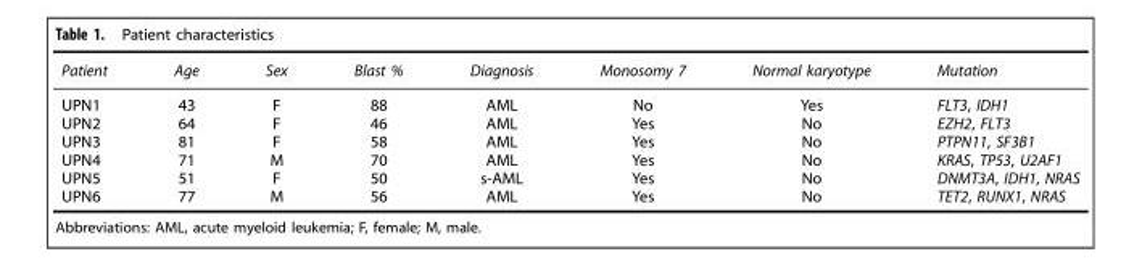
<table><thead><tr><td>Patient</td><td>Age</td><td>Sex</td><td>Blast %</td><td>Diagnosis</td><td>Monosomy 7</td><td>Normal karyotype</td><td>Mutation</td></tr></thead><tbody><tr><td>UPN1</td><td>43</td><td>F</td><td>88</td><td>AML</td><td>No</td><td>Yes</td><td>FLT3, IDH1</td></tr><tr><td>UPN2</td><td>64</td><td>F</td><td>46</td><td>AML</td><td>Yes</td><td>No</td><td>EZH2, FLT3</td></tr><tr><td>UPN3</td><td>81</td><td>F</td><td>58</td><td>AML</td><td>Yes</td><td>No</td><td>PTPN11, SF3B1</td></tr><tr><td>UPN4</td><td>71</td><td>M</td><td>70</td><td>AML</td><td>Yes</td><td>No</td><td>KRAS, TP53, U2AF1</td></tr><tr><td>UPN5</td><td>51</td><td>F</td><td>50</td><td>s-AML</td><td>Yes</td><td>No</td><td>DNMT3A, IDH1, NRAS</td></tr><tr><td>UPN6</td><td>77</td><td>M</td><td>56</td><td>AML</td><td>Yes</td><td>No</td><td>TET2, RUNX1, NRAS</td></tr></tbody></table>